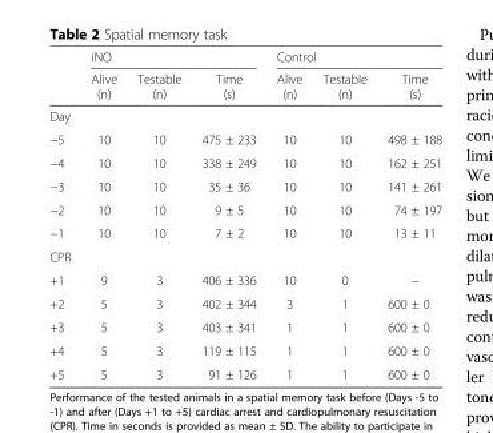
<table><thead><tr><td rowspan="2"></td><td colspan="3">iNO</td><td colspan="3">Control</td></tr><tr><td>Alive (n)</td><td>Testable (n)</td><td>Time (s)</td><td>Alive (n)</td><td>Testable (n)</td><td>Time (s)</td></tr></thead><tbody><tr><td colspan="7">Day</td></tr><tr><td>−5</td><td>10</td><td>10</td><td>475 ± 233</td><td>10</td><td>10</td><td>498 ± 188</td></tr><tr><td>−4</td><td>10</td><td>10</td><td>338 ± 249</td><td>10</td><td>10</td><td>162 ± 251</td></tr><tr><td>−3</td><td>10</td><td>10</td><td>35 ± 36</td><td>10</td><td>10</td><td>141 ± 261</td></tr><tr><td>−2</td><td>10</td><td>10</td><td>9 ± 5</td><td>10</td><td>10</td><td>74 ± 197</td></tr><tr><td>−1</td><td>10</td><td>10</td><td>7 ± 2</td><td>10</td><td>10</td><td>13 ± 11</td></tr><tr><td colspan="7">CPR</td></tr><tr><td>+1</td><td>9</td><td>3</td><td>406 ± 336</td><td>10</td><td>0</td><td>−</td></tr><tr><td>+2</td><td>5</td><td>3</td><td>402 ± 344</td><td>3</td><td>1</td><td>600 ± 0</td></tr><tr><td>+3</td><td>5</td><td>3</td><td>403 ± 341</td><td>1</td><td>1</td><td>600 ± 0</td></tr><tr><td>+4</td><td>5</td><td>3</td><td>119 ± 115</td><td>1</td><td>1</td><td>600 ± 0</td></tr><tr><td>+5</td><td>5</td><td>3</td><td>91 ± 126</td><td>1</td><td>1</td><td>600 ± 0</td></tr></tbody></table>